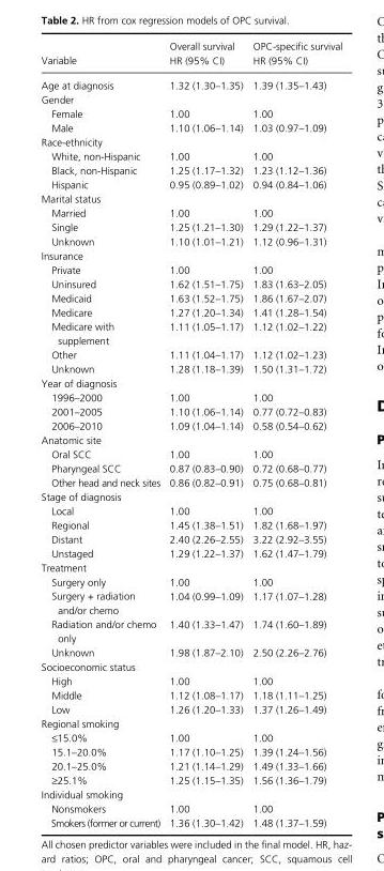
<table><thead><tr><td>Variable</td><td>Overall survival HR (95% CI)</td><td>OPC- specific survival HR (95% CI)</td></tr></thead><tbody><tr><td>Age at diagnosis</td><td>1.32 (1.30–1.35)</td><td>1.39 (1.35–1.43)</td></tr><tr><td colspan="3">Gender</td></tr><tr><td>Female</td><td>1.00</td><td>1.00</td></tr><tr><td>Male</td><td>1.10 (1.06–1.14)</td><td>1.03 (0.97–1.09)</td></tr><tr><td colspan="3">Race- ethnicity</td></tr><tr><td>White, non- Hispanic</td><td>1.00</td><td>1.00</td></tr><tr><td>Black, non- Hispanic</td><td>1.25 (1.17–1.32)</td><td>1.23 (1.12–1.36)</td></tr><tr><td>Hispanic</td><td>0.95 (0.89–1.02)</td><td>0.94 (0.84–1.06)</td></tr><tr><td colspan="3">Marital status</td></tr><tr><td>Married</td><td>1.00</td><td>1.00</td></tr><tr><td>Single</td><td>1.25 (1.21–1.30)</td><td>1.29 (1.22–1.37)</td></tr><tr><td>Unknown</td><td>1.10 (1.01–1.21)</td><td>1.12 (0.96–1.31)</td></tr><tr><td colspan="3">Insurance</td></tr><tr><td>Private</td><td>1.00</td><td>1.00</td></tr><tr><td>Uninsured</td><td>1.62 (1.51–1.75)</td><td>1.83 (1.63–2.05)</td></tr><tr><td>Medicaid</td><td>1.63 (1.52–1.75)</td><td>1.86 (1.67–2.07)</td></tr><tr><td>Medicare</td><td>1.27 (1.20–1.34)</td><td>1.41 (1.28–1.54)</td></tr><tr><td>Medicare with supplement</td><td>1.11 (1.05–1.17)</td><td>1.12 (1.02–1.22)</td></tr><tr><td>Other</td><td>1.11 (1.04–1.17)</td><td>1.12 (1.02–1.23)</td></tr><tr><td>Unknown</td><td>1.28 (1.18–1.39)</td><td>1.50 (1.31–1.72)</td></tr><tr><td colspan="3">Year of diagnosis</td></tr><tr><td>1996–2000</td><td>1.00</td><td>1.00</td></tr><tr><td>2001–2005</td><td>1.10 (1.06–1.14)</td><td>0.77 (0.72–0.83)</td></tr><tr><td>2006–2010</td><td>1.09 (1.04–1.14)</td><td>0.58 (0.54–0.62)</td></tr><tr><td colspan="3">Anatomic site</td></tr><tr><td>Oral SCC</td><td>1.00</td><td>1.00</td></tr><tr><td>Pharyngeal SCC</td><td>0.87 (0.83–0.90)</td><td>0.72 (0.68–0.77)</td></tr><tr><td>Other head and neck sites</td><td>0.86 (0.82–0.91)</td><td>0.75 (0.68–0.81)</td></tr><tr><td colspan="3">Stage of diagnosis</td></tr><tr><td>Local</td><td>1.00</td><td>1.00</td></tr><tr><td>Regional</td><td>1.45 (1.38–1.51)</td><td>1.82 (1.68–1.97)</td></tr><tr><td>Distant</td><td>2.40 (2.26–2.55)</td><td>3.22 (2.92–3.55)</td></tr><tr><td>Unstaged</td><td>1.29 (1.22–1.37)</td><td>1.62 (1.47–1.79)</td></tr><tr><td colspan="3">Treatment</td></tr><tr><td>Surgery only</td><td>1.00</td><td>1.00</td></tr><tr><td>Surgery + radiation and/or chemo</td><td>1.04 (0.99–1.09)</td><td>1.17 (1.07–1.28)</td></tr><tr><td>Radiation and/or chemo only</td><td>1.40 (1.33–1.47)</td><td>1.74 (1.60–1.89)</td></tr><tr><td>Unknown</td><td>1.98 (1.87–2.10)</td><td>2.50 (2.26–2.76)</td></tr><tr><td colspan="3">Socioeconomic status</td></tr><tr><td>High</td><td>1.00</td><td>1.00</td></tr><tr><td>Middle</td><td>1.12 (1.08–1.17)</td><td>1.18 (1.11–1.25)</td></tr><tr><td>Low</td><td>1.26 (1.20–1.33)</td><td>1.37 (1.26–1.49)</td></tr><tr><td colspan="3">Regional smoking</td></tr><tr><td>≤15.0%</td><td>1.00</td><td>1.00</td></tr><tr><td>15.1–20.0%</td><td>1.17 (1.10–1.25)</td><td>1.39 (1.24–1.56)</td></tr><tr><td>20.1–25.0%</td><td>1.21 (1.14–1.29)</td><td>1.49 (1.33–1.66)</td></tr><tr><td>≥25.1%</td><td>1.25 (1.15–1.35)</td><td>1.56 (1.36–1.79)</td></tr><tr><td colspan="3">Individual smoking</td></tr><tr><td>Nonsmokers</td><td>1.00</td><td>1.00</td></tr><tr><td>Smokers (former or current)</td><td>1.36 (1.30–1.42)</td><td>1.48 (1.37–1.59)</td></tr></tbody></table>